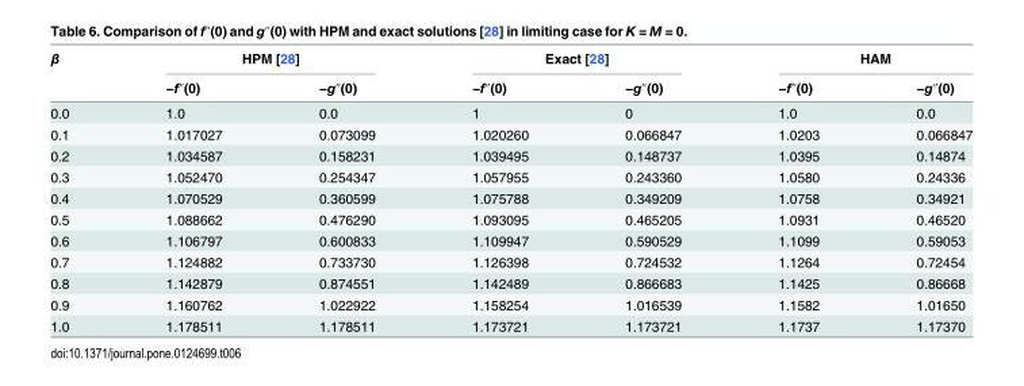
<table><thead><tr><td rowspan="2">β</td><td colspan="2">HPM [28]</td><td colspan="2">Exact [28]</td><td colspan="2">HAM</td></tr><tr><td>−f@(0)</td><td>−g@(0)</td><td>−f@(0)</td><td>−g@(0)</td><td>−f@(0)</td><td>−g@(0)</td></tr></thead><tbody><tr><td>0.0</td><td>1.0</td><td>0.0</td><td>1</td><td>0</td><td>1.0</td><td>0.0</td></tr><tr><td>0.1</td><td>1.017027</td><td>0.073099</td><td>1.020260</td><td>0.066847</td><td>1.0203</td><td>0.066847</td></tr><tr><td>0.2</td><td>1.034587</td><td>0.158231</td><td>1.039495</td><td>0.148737</td><td>1.0395</td><td>0.14874</td></tr><tr><td>0.3</td><td>1.052470</td><td>0.254347</td><td>1.057955</td><td>0.243360</td><td>1.0580</td><td>0.24336</td></tr><tr><td>0.4</td><td>1.070529</td><td>0.360599</td><td>1.075788</td><td>0.349209</td><td>1.0758</td><td>0.34921</td></tr><tr><td>0.5</td><td>1.088662</td><td>0.476290</td><td>1.093095</td><td>0.465205</td><td>1.0931</td><td>0.46520</td></tr><tr><td>0.6</td><td>1.106797</td><td>0.600833</td><td>1.109947</td><td>0.590529</td><td>1.1099</td><td>0.59053</td></tr><tr><td>0.7</td><td>1.124882</td><td>0.733730</td><td>1.126398</td><td>0.724532</td><td>1.1264</td><td>0.72454</td></tr><tr><td>0.8</td><td>1.142879</td><td>0.874551</td><td>1.142489</td><td>0.866683</td><td>1.1425</td><td>0.86668</td></tr><tr><td>0.9</td><td>1.160762</td><td>1.022922</td><td>1.158254</td><td>1.016539</td><td>1.1582</td><td>1.01650</td></tr><tr><td>1.0</td><td>1.178511</td><td>1.178511</td><td>1.173721</td><td>1.173721</td><td>1.1737</td><td>1.17370</td></tr></tbody></table>